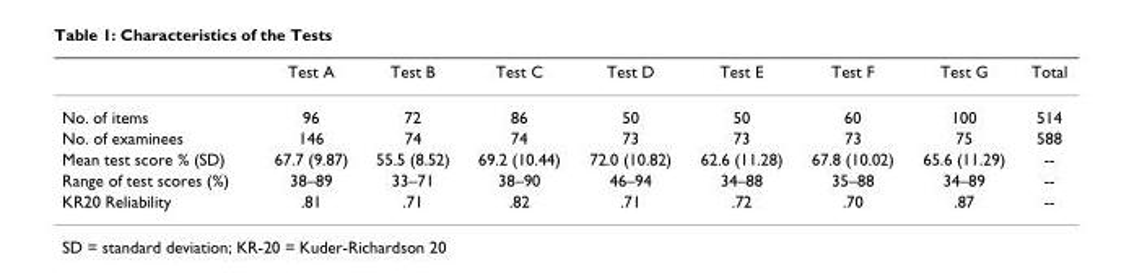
<table><thead><tr><td></td><td>Test A</td><td>Test B</td><td>Test C</td><td>Test D</td><td>Test E</td><td>Test F</td><td>Test G</td><td>Total</td></tr></thead><tbody><tr><td>No. of items</td><td>96</td><td>72</td><td>86</td><td>50</td><td>50</td><td>60</td><td>100</td><td>514</td></tr><tr><td>No. of examinees</td><td>146</td><td>74</td><td>74</td><td>73</td><td>73</td><td>73</td><td>75</td><td>588</td></tr><tr><td>Mean test score % (SD)</td><td>67.7 (9.87)</td><td>55.5 (8.52)</td><td>69.2 (10.44)</td><td>72.0 (10.82)</td><td>62.6 (11.28)</td><td>67.8 (10.02)</td><td>65.6 (11.29)</td><td>--</td></tr><tr><td>Range of test scores (%)</td><td>38–89</td><td>33–71</td><td>38–90</td><td>46–94</td><td>34–88</td><td>35–88</td><td>34–89</td><td>--</td></tr><tr><td>KR20 Reliability</td><td>.81</td><td>.71</td><td>.82</td><td>.71</td><td>.72</td><td>.70</td><td>.87</td><td>--</td></tr></tbody></table>